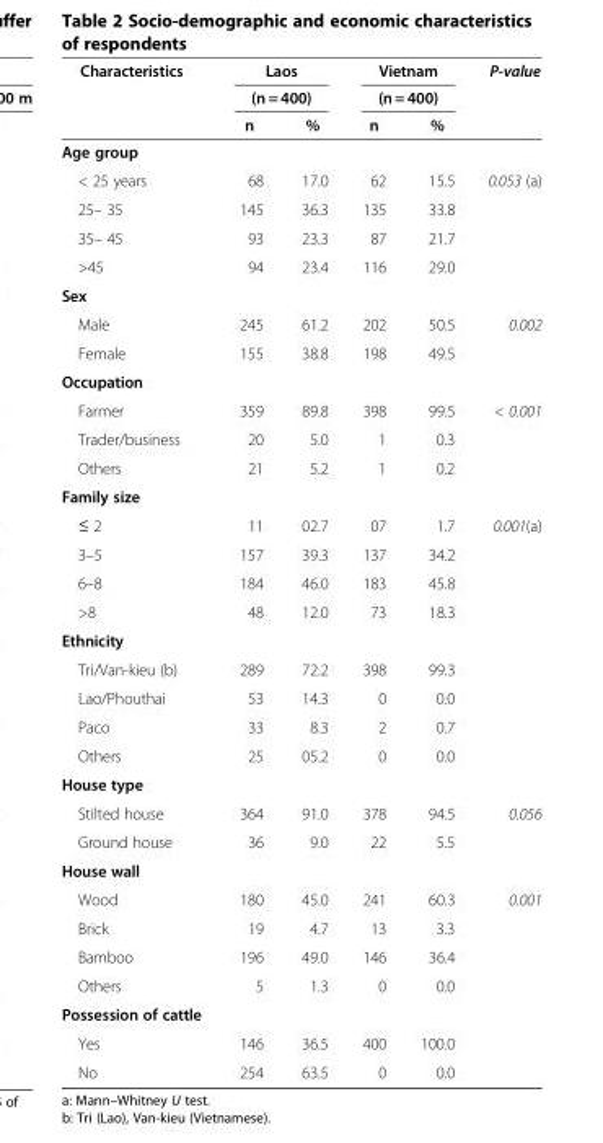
<table><thead><tr><td rowspan="3">Characteristics</td><td rowspan="2" colspan="2">Laos (n = 400)</td><td rowspan="2" colspan="2">Vietnam (n = 400)</td><td rowspan="3">P-value</td></tr><tr></tr><tr><td>n</td><td>%</td><td>n</td><td>%</td></tr></thead><tbody><tr><td colspan="6">Age group</td></tr><tr><td>&lt; 25 years</td><td>68</td><td>17.0</td><td>62</td><td>15.5</td><td>0.053 (a)</td></tr><tr><td>25– 35</td><td>145</td><td>36.3</td><td>135</td><td>33.8</td><td></td></tr><tr><td>35– 45</td><td>93</td><td>23.3</td><td>87</td><td>21.7</td><td></td></tr><tr><td>&gt;45</td><td>94</td><td>23.4</td><td>116</td><td>29.0</td><td></td></tr><tr><td colspan="6">Sex</td></tr><tr><td>Male</td><td>245</td><td>61.2</td><td>202</td><td>50.5</td><td>0.002</td></tr><tr><td>Female</td><td>155</td><td>38.8</td><td>198</td><td>49.5</td><td></td></tr><tr><td colspan="6">Occupation</td></tr><tr><td>Farmer</td><td>359</td><td>89.8</td><td>398</td><td>99.5</td><td>&lt; 0.001</td></tr><tr><td>Trader/business</td><td>20</td><td>5.0</td><td>1</td><td>0.3</td><td></td></tr><tr><td>Others</td><td>21</td><td>5.2</td><td>1</td><td>0.2</td><td></td></tr><tr><td colspan="6">Family size</td></tr><tr><td>≤ 2</td><td>11</td><td>02.7</td><td>07</td><td>1.7</td><td>0.001(a)</td></tr><tr><td>3–5</td><td>157</td><td>39.3</td><td>137</td><td>34.2</td><td></td></tr><tr><td>6–8</td><td>184</td><td>46.0</td><td>183</td><td>45.8</td><td></td></tr><tr><td>&gt;8</td><td>48</td><td>12.0</td><td>73</td><td>18.3</td><td></td></tr><tr><td colspan="6">Ethnicity</td></tr><tr><td>Tri/Van-kieu (b)</td><td>289</td><td>72.2</td><td>398</td><td>99.3</td><td></td></tr><tr><td>Lao/Phouthai</td><td>53</td><td>14.3</td><td>0</td><td>0.0</td><td></td></tr><tr><td>Paco</td><td>33</td><td>8.3</td><td>2</td><td>0.7</td><td></td></tr><tr><td>Others</td><td>25</td><td>05.2</td><td>0</td><td>0.0</td><td></td></tr><tr><td colspan="6">House type</td></tr><tr><td>Stilted house</td><td>364</td><td>91.0</td><td>378</td><td>94.5</td><td>0.056</td></tr><tr><td>Ground house</td><td>36</td><td>9.0</td><td>22</td><td>5.5</td><td></td></tr><tr><td colspan="6">House wall</td></tr><tr><td>Wood</td><td>180</td><td>45.0</td><td>241</td><td>60.3</td><td>0.001</td></tr><tr><td>Brick</td><td>19</td><td>4.7</td><td>13</td><td>3.3</td><td></td></tr><tr><td>Bamboo</td><td>196</td><td>49.0</td><td>146</td><td>36.4</td><td></td></tr><tr><td>Others</td><td>5</td><td>1.3</td><td>0</td><td>0.0</td><td></td></tr><tr><td colspan="6">Possession of cattle</td></tr><tr><td>Yes</td><td>146</td><td>36.5</td><td>400</td><td>100.0</td><td></td></tr><tr><td>No</td><td>254</td><td>63.5</td><td>0</td><td>0.0</td><td></td></tr></tbody></table>